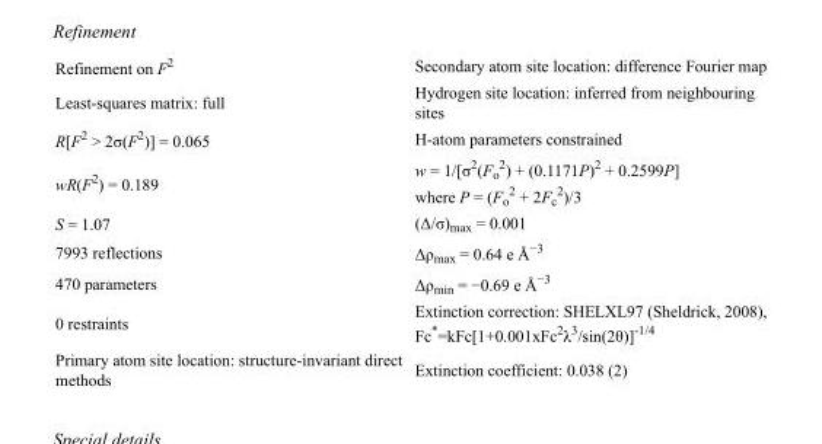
<table><tbody><tr><td>Refinement on F<sup>2</sup></td><td>Secondary atom site location: difference Fourier map</td></tr><tr><td>Least-squares matrix: full</td><td>Hydrogen site location: inferred from neighbouring sites</td></tr><tr><td>R[F<sup>2</sup> &gt; 2σ(F<sup>2</sup>)] = 0.065</td><td>H-atom parameters constrained</td></tr><tr><td>wR(F<sup>2</sup>) = 0.189</td><td>w = 1/[σ<sup>2</sup>(F<sub>o</sub> <sup>2</sup>) + (0.1171P)<sup>2</sup> + 0.2599P] where P = (F<sub>o</sub> <sup>2</sup> + 2F<sub>c</sub> <sup>2</sup>)/3</td></tr><tr><td>S = 1.07</td><td>(Δ/σ)<sub>max</sub> = 0.001</td></tr><tr><td>7993 reflections</td><td>Δρ<sub>max</sub> = 0.64 e Å<sup>−3</sup></td></tr><tr><td>470 parameters</td><td>Δρ<sub>min</sub> = −0.69 e Å<sup>−3</sup></td></tr><tr><td>0 restraints</td><td>Extinction correction: SHELXL97 (Sheldrick, 2008), Fc*=kFc[1+0.001xFc<sup>2</sup>λ<sup>3</sup>/sin(2θ)]<sup>-1/4</sup></td></tr><tr><td>Primary atom site location: structure-invariant direct methods</td><td>Extinction coefficient: 0.038 (2)</td></tr></tbody></table>